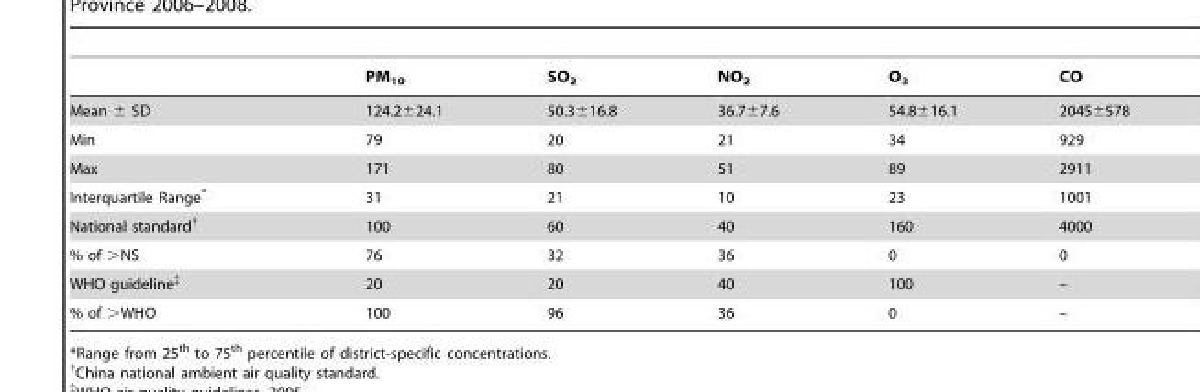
<table><thead><tr><td></td><td>PM<sub>10</sub></td><td>SO<sub>2</sub></td><td>NO<sub>2</sub></td><td>O<sub>3</sub></td><td>CO</td></tr></thead><tbody><tr><td>Mean ± SD</td><td>124.2±24.1</td><td>50.3±16.8</td><td>36.7±7.6</td><td>54.8±16.1</td><td>2045±578</td></tr><tr><td>Min</td><td>79</td><td>20</td><td>21</td><td>34</td><td>929</td></tr><tr><td>Max</td><td>171</td><td>80</td><td>51</td><td>89</td><td>2911</td></tr><tr><td>Interquartile Range*</td><td>31</td><td>21</td><td>10</td><td>23</td><td>1001</td></tr><tr><td>National standard†</td><td>100</td><td>60</td><td>40</td><td>160</td><td>4000</td></tr><tr><td>% of &gt;NS</td><td>76</td><td>32</td><td>36</td><td>0</td><td>0</td></tr><tr><td>WHO guideline‡</td><td>20</td><td>20</td><td>40</td><td>100</td><td>–</td></tr><tr><td>% of &gt;WHO</td><td>100</td><td>96</td><td>36</td><td>0</td><td>–</td></tr></tbody></table>